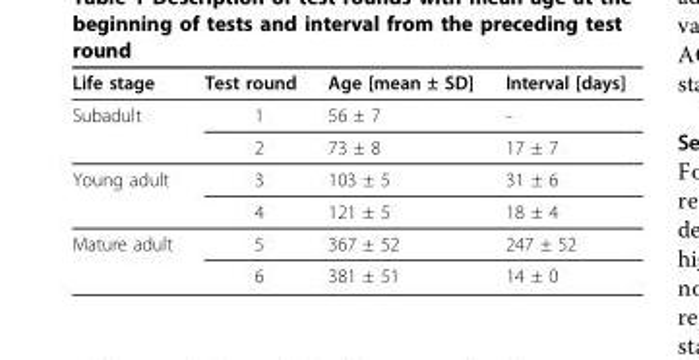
<table><thead><tr><td>Life stage</td><td>Test round</td><td>Age [mean ± SD]</td><td>Interval [days]</td></tr></thead><tbody><tr><td rowspan="2">Subadult</td><td>1</td><td>56 ± 7</td><td>-</td></tr><tr><td>2</td><td>73 ± 8</td><td>17 ± 7</td></tr><tr><td rowspan="2">Young adult</td><td>3</td><td>103 ± 5</td><td>31 ± 6</td></tr><tr><td>4</td><td>121 ± 5</td><td>18 ± 4</td></tr><tr><td rowspan="2">Mature adult</td><td>5</td><td>367 ± 52</td><td>247 ± 52</td></tr><tr><td>6</td><td>381 ± 51</td><td>14 ± 0</td></tr></tbody></table>